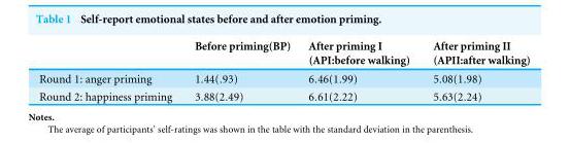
<table><thead><tr><td></td><td>Before priming(BP)</td><td>After priming I (API:before walking)</td><td>After priming II (APII:after walking)</td></tr></thead><tbody><tr><td>Round 1: anger priming</td><td>1.44(.93)</td><td>6.46(1.99)</td><td>5.08(1.98)</td></tr><tr><td>Round 2: happiness priming</td><td>3.88(2.49)</td><td>6.61(2.22)</td><td>5.63(2.24)</td></tr></tbody></table>